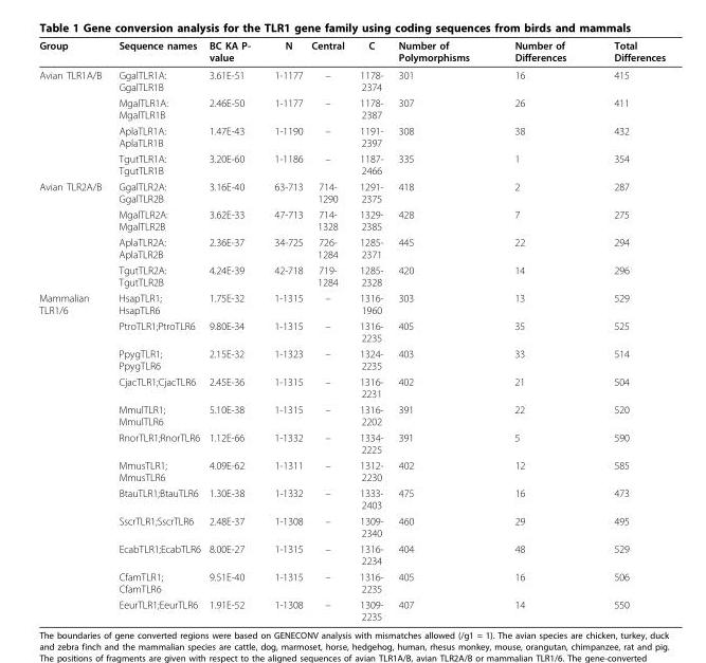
<table><thead><tr><td>Group</td><td>Sequence names</td><td>BC KA P- value</td><td>N</td><td>Central</td><td>C</td><td>Number of Polymorphisms</td><td>Number of Differences</td><td>Total Differences</td></tr></thead><tbody><tr><td rowspan="4">Avian TLR1A/B</td><td>GgalTLR1A: GgalTLR1B</td><td>3.61E-51</td><td>1-1177</td><td>–</td><td>1178- 2374</td><td>301</td><td>16</td><td>415</td></tr><tr><td>MgalTLR1A: MgalTLR1B</td><td>2.46E-50</td><td>1-1177</td><td>–</td><td>1178- 2387</td><td>307</td><td>26</td><td>411</td></tr><tr><td>AplaTLR1A: AplaTLR1B</td><td>1.47E-43</td><td>1-1190</td><td>–</td><td>1191- 2397</td><td>308</td><td>38</td><td>432</td></tr><tr><td>TgutTLR1A: TgutTLR1B</td><td>3.20E-60</td><td>1-1186</td><td>–</td><td>1187- 2466</td><td>335</td><td>1</td><td>354</td></tr><tr><td rowspan="4">Avian TLR2A/B</td><td>GgalTLR2A: GgalTLR2B</td><td>3.16E-40</td><td>63-713</td><td>714- 1290</td><td>1291- 2375</td><td>418</td><td>2</td><td>287</td></tr><tr><td>MgalTLR2A: MgalTLR2B</td><td>3.62E-33</td><td>47-713</td><td>714- 1328</td><td>1329- 2385</td><td>428</td><td>7</td><td>275</td></tr><tr><td>AplaTLR2A: AplaTLR2B</td><td>2.36E-37</td><td>34-725</td><td>726- 1284</td><td>1285- 2371</td><td>445</td><td>22</td><td>294</td></tr><tr><td>TgutTLR2A: TgutTLR2B</td><td>4.24E-39</td><td>42-718</td><td>719- 1284</td><td>1285- 2328</td><td>420</td><td>14</td><td>296</td></tr><tr><td rowspan="12">Mammalian TLR1/6</td><td>HsapTLR1; HsapTLR6</td><td>1.75E-32</td><td>1-1315</td><td>–</td><td>1316- 1960</td><td>303</td><td>13</td><td>529</td></tr><tr><td>PtroTLR1;PtroTLR6</td><td>9.80E-34</td><td>1-1315</td><td>–</td><td>1316- 2235</td><td>405</td><td>35</td><td>525</td></tr><tr><td>PpygTLR1; PpygTLR6</td><td>2.15E-32</td><td>1-1323</td><td>–</td><td>1324- 2235</td><td>403</td><td>33</td><td>514</td></tr><tr><td>CjacTLR1;CjacTLR6</td><td>2.45E-36</td><td>1-1315</td><td>–</td><td>1316- 2231</td><td>402</td><td>21</td><td>504</td></tr><tr><td>MmulTLR1; MmulTLR6</td><td>5.10E-38</td><td>1-1315</td><td>–</td><td>1316- 2202</td><td>391</td><td>22</td><td>520</td></tr><tr><td>RnorTLR1;RnorTLR6</td><td>1.12E-66</td><td>1-1332</td><td>–</td><td>1334- 2225</td><td>391</td><td>5</td><td>590</td></tr><tr><td>MmusTLR1; MmusTLR6</td><td>4.09E-62</td><td>1-1311</td><td>–</td><td>1312- 2230</td><td>402</td><td>12</td><td>585</td></tr><tr><td>BtauTLR1;BtauTLR6</td><td>1.30E-38</td><td>1-1332</td><td>–</td><td>1333- 2403</td><td>475</td><td>16</td><td>473</td></tr><tr><td>SscrTLR1;SscrTLR6</td><td>2.48E-37</td><td>1-1308</td><td>–</td><td>1309- 2340</td><td>460</td><td>29</td><td>495</td></tr><tr><td>EcabTLR1;EcabTLR6</td><td>8.00E-27</td><td>1-1315</td><td>–</td><td>1316- 2234</td><td>404</td><td>48</td><td>529</td></tr><tr><td>CfamTLR1; CfamTLR6</td><td>9.51E-40</td><td>1-1315</td><td>–</td><td>1316- 2235</td><td>405</td><td>16</td><td>506</td></tr><tr><td>EeurTLR1;EeurTLR6</td><td>1.91E-52</td><td>1-1308</td><td>–</td><td>1309- 2235</td><td>407</td><td>14</td><td>550</td></tr></tbody></table>